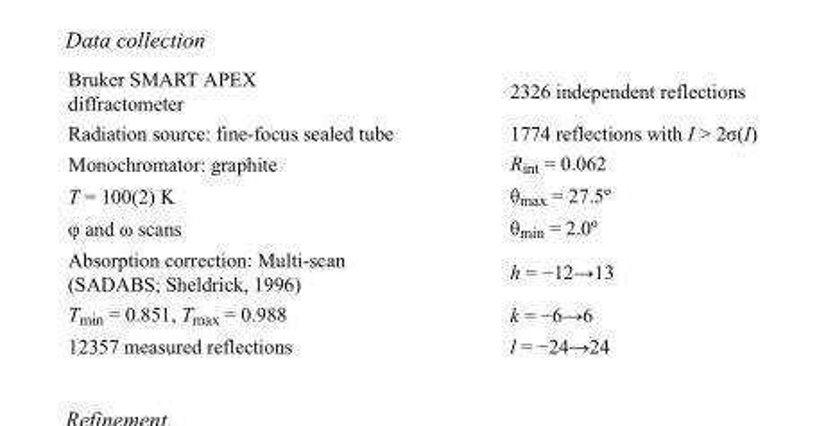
<table><tbody><tr><td>Bruker SMART APEX diffractometer</td><td>2326 independent reflections</td></tr><tr><td>Radiation source: fine-focus sealed tube</td><td>1774 reflections with I &gt; 2σ(I)</td></tr><tr><td>Monochromator: graphite</td><td>R<sub>int</sub> = 0.062</td></tr><tr><td>T = 100(2) K</td><td>θ<sub>max</sub> = 27.5º</td></tr><tr><td>φ and ω scans</td><td>θ<sub>min</sub> = 2.0º</td></tr><tr><td>Absorption correction: Multi-scan (SADABS; Sheldrick, 1996)</td><td>h = −12→13</td></tr><tr><td>T<sub>min</sub> = 0.851, T<sub>max</sub> = 0.988</td><td>k = −6→6</td></tr><tr><td>12357 measured reflections</td><td>l = −24→24</td></tr></tbody></table>